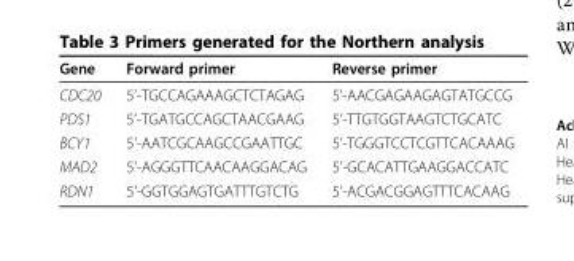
<table><thead><tr><td>Gene</td><td>Forward primer</td><td>Reverse primer</td></tr></thead><tbody><tr><td>CDC20</td><td>5’-TGCCAGAAAGCTCTAGAG</td><td>5’-AACGAGAAGAGTATGCCG</td></tr><tr><td>PDS1</td><td>5’-TGATGCCAGCTAACGAAG</td><td>5’-TTGTGGTAAGTCTGCATC</td></tr><tr><td>BCY1</td><td>5’-AATCGCAAGCCGAATTGC</td><td>5’-TGGGTCCTCGTTCACAAAG</td></tr><tr><td>MAD2</td><td>5’-AGGGTTCAACAAGGACAG</td><td>5’-GCACATTGAAGGACCATC</td></tr><tr><td>RDN1</td><td>5’-GGTGGAGTGATTTGTCTG</td><td>5’-ACGACGGAGTTTCACAAG</td></tr></tbody></table>